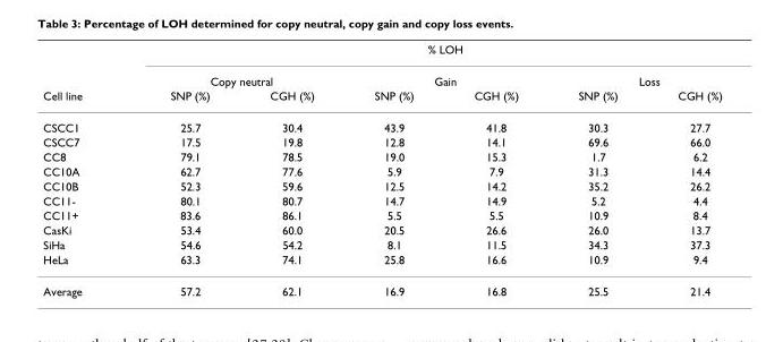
<table><thead><tr><td rowspan="3">Cell line</td><td colspan="6">% LOH</td></tr><tr><td colspan="2">Copy neutral</td><td colspan="2">Gain</td><td colspan="2">Loss</td></tr><tr><td>SNP (%)</td><td>CGH (%)</td><td>SNP (%)</td><td>CGH (%)</td><td>SNP (%)</td><td>CGH (%)</td></tr></thead><tbody><tr><td>CSCC1</td><td>25.7</td><td>30.4</td><td>43.9</td><td>41.8</td><td>30.3</td><td>27.7</td></tr><tr><td>CSCC7</td><td>17.5</td><td>19.8</td><td>12.8</td><td>14.1</td><td>69.6</td><td>66.0</td></tr><tr><td>CC8</td><td>79.1</td><td>78.5</td><td>19.0</td><td>15.3</td><td>1.7</td><td>6.2</td></tr><tr><td>CC10A</td><td>62.7</td><td>77.6</td><td>5.9</td><td>7.9</td><td>31.3</td><td>14.4</td></tr><tr><td>CC10B</td><td>52.3</td><td>59.6</td><td>12.5</td><td>14.2</td><td>35.2</td><td>26.2</td></tr><tr><td>CC11-</td><td>80.1</td><td>80.7</td><td>14.7</td><td>14.9</td><td>5.2</td><td>4.4</td></tr><tr><td>CC11+</td><td>83.6</td><td>86.1</td><td>5.5</td><td>5.5</td><td>10.9</td><td>8.4</td></tr><tr><td>CasKi</td><td>53.4</td><td>60.0</td><td>20.5</td><td>26.6</td><td>26.0</td><td>13.7</td></tr><tr><td>SiHa</td><td>54.6</td><td>54.2</td><td>8.1</td><td>11.5</td><td>34.3</td><td>37.3</td></tr><tr><td>HeLa</td><td>63.3</td><td>74.1</td><td>25.8</td><td>16.6</td><td>10.9</td><td>9.4</td></tr><tr><td>Average</td><td>57.2</td><td>62.1</td><td>16.9</td><td>16.8</td><td>25.5</td><td>21.4</td></tr></tbody></table>